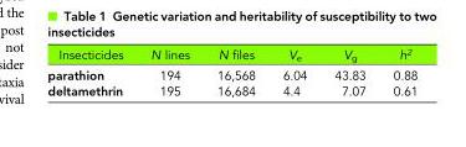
<table><thead><tr><td>Insecticides</td><td>N lines</td><td>N files</td><td>V<sub>e</sub></td><td>V<sub>g</sub></td><td>h<sup>2</sup></td></tr></thead><tbody><tr><td>parathion</td><td>194</td><td>16,568</td><td>6.04</td><td>43.83</td><td>0.88</td></tr><tr><td>deltamethrin</td><td>195</td><td>16,684</td><td>4.4</td><td>7.07</td><td>0.61</td></tr></tbody></table>